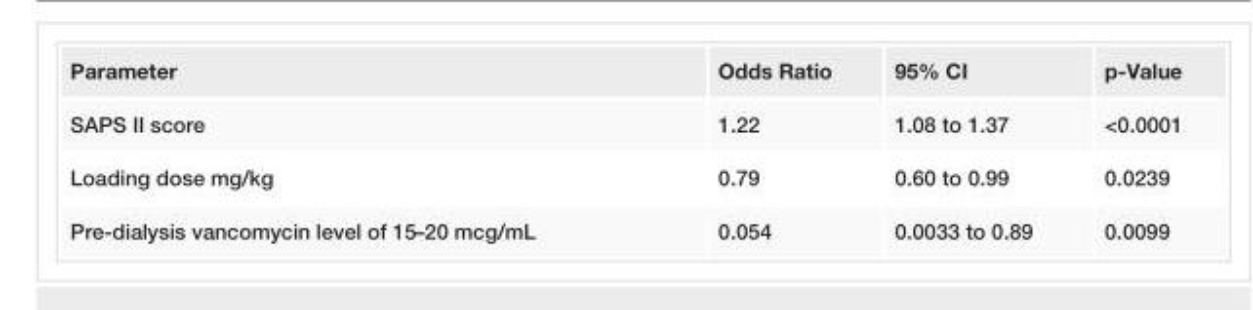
<table><tbody><tr><td>Parameter</td><td>Odds Ratio</td><td>95% CI</td><td>p-Value</td></tr><tr><td>SAPS II score</td><td>1.22</td><td>1.08 to 1.37</td><td>&lt;0.0001</td></tr><tr><td>Loading dose mg/kg</td><td>0.79</td><td>0.60 to 0.99</td><td>0.0239</td></tr><tr><td>Pre-dialysis vancomycin level of 15–20 mcg/mL</td><td>0.054</td><td>0.0033 to 0.89</td><td>0.0099</td></tr></tbody></table>